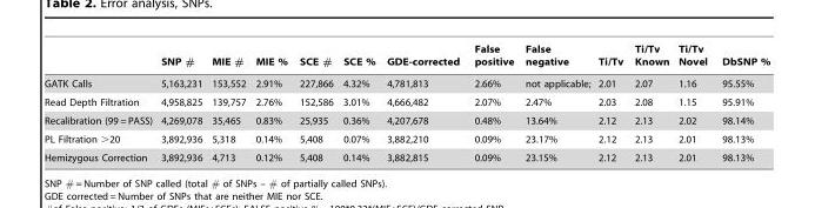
<table><thead><tr><td></td><td>SNP #</td><td>MIE #</td><td>MIE %</td><td>SCE #</td><td>SCE %</td><td>GDE-corrected</td><td>False positive</td><td>False negative</td><td>Ti/Tv</td><td>Ti/Tv Known</td><td>Ti/Tv Novel</td><td>DbSNP %</td></tr></thead><tbody><tr><td>GATK Calls</td><td>5,163,231</td><td>153,552</td><td>2.91%</td><td>227,866</td><td>4.32%</td><td>4,781,813</td><td>2.66%</td><td>not applicable;</td><td>2.01</td><td>2.07</td><td>1.16</td><td>95.55%</td></tr><tr><td>Read Depth Filtration</td><td>4,958,825</td><td>139,757</td><td>2.76%</td><td>152,586</td><td>3.01%</td><td>4,666,482</td><td>2.07%</td><td>2.47%</td><td>2.03</td><td>2.08</td><td>1.15</td><td>95.91%</td></tr><tr><td>Recalibration (99 = PASS)</td><td>4,269,078</td><td>35,465</td><td>0.83%</td><td>25,935</td><td>0.36%</td><td>4,207,678</td><td>0.48%</td><td>13.64%</td><td>2.12</td><td>2.13</td><td>2.02</td><td>98.14%</td></tr><tr><td>PL Filtration &gt;20</td><td>3,892,936</td><td>5,318</td><td>0.14%</td><td>5,408</td><td>0.07%</td><td>3,882,210</td><td>0.09%</td><td>23.17%</td><td>2.12</td><td>2.13</td><td>2.01</td><td>98.13%</td></tr><tr><td>Hemizygous Correction</td><td>3,892,936</td><td>4,713</td><td>0.12%</td><td>5,408</td><td>0.14%</td><td>3,882,815</td><td>0.09%</td><td>23.15%</td><td>2.12</td><td>2.13</td><td>2.01</td><td>98.13%</td></tr></tbody></table>